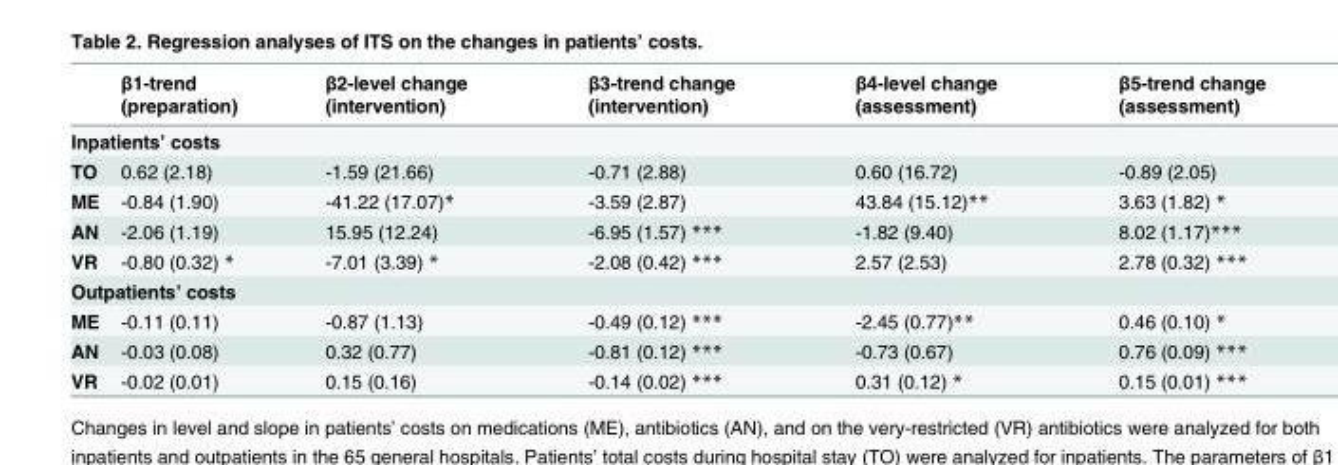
<table><thead><tr><td></td><td>β1-trend (preparation)</td><td>β2-level change (intervention)</td><td>β3-trend change (intervention)</td><td>β4-level change (assessment)</td><td>β5-trend change (assessment)</td></tr></thead><tbody><tr><td colspan="6">Inpatients’ costs</td></tr><tr><td>TO</td><td>0.62 (2.18)</td><td>-1.59 (21.66)</td><td>-0.71 (2.88)</td><td>0.60 (16.72)</td><td>-0.89 (2.05)</td></tr><tr><td>ME</td><td>-0.84 (1.90)</td><td>-41.22 (17.07)*</td><td>-3.59 (2.87)</td><td>43.84 (15.12)**</td><td>3.63 (1.82) *</td></tr><tr><td>AN</td><td>-2.06 (1.19)</td><td>15.95 (12.24)</td><td>-6.95 (1.57) ***</td><td>-1.82 (9.40)</td><td>8.02 (1.17)***</td></tr><tr><td>VR</td><td>-0.80 (0.32) *</td><td>-7.01 (3.39) *</td><td>-2.08 (0.42) ***</td><td>2.57 (2.53)</td><td>2.78 (0.32) ***</td></tr><tr><td colspan="6">Outpatients’ costs</td></tr><tr><td>ME</td><td>-0.11 (0.11)</td><td>-0.87 (1.13)</td><td>-0.49 (0.12) ***</td><td>-2.45 (0.77)**</td><td>0.46 (0.10) *</td></tr><tr><td>AN</td><td>-0.03 (0.08)</td><td>0.32 (0.77)</td><td>-0.81 (0.12) ***</td><td>-0.73 (0.67)</td><td>0.76 (0.09) ***</td></tr><tr><td>VR</td><td>-0.02 (0.01)</td><td>0.15 (0.16)</td><td>-0.14 (0.02) ***</td><td>0.31 (0.12) *</td><td>0.15 (0.01) ***</td></tr></tbody></table>